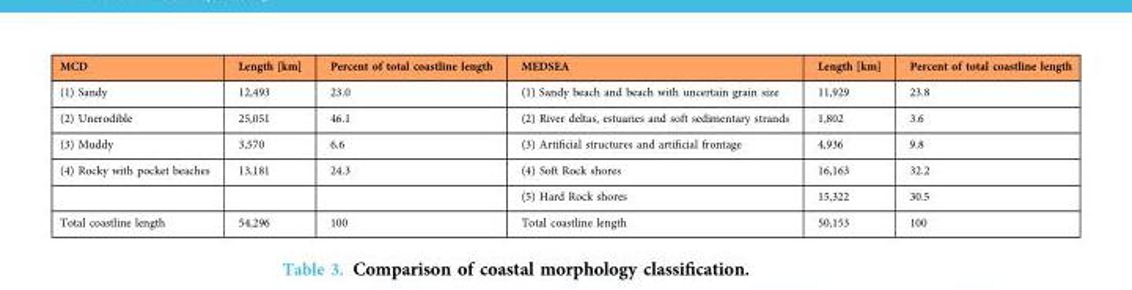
<table><thead><tr><td>MCD</td><td>Length [km]</td><td>Percent of total coastline length</td><td>MEDSEA</td><td>Length [km]</td><td>Percent of total coastline length</td></tr></thead><tbody><tr><td>(1) Sandy</td><td>12,493</td><td>23.0</td><td>(1) Sandy beach and beach with uncertain grain size</td><td>11,929</td><td>23.8</td></tr><tr><td>(2) Unerodible</td><td>25,051</td><td>46.1</td><td>(2) River deltas, estuaries and soft sedimentary strands</td><td>1,802</td><td>3.6</td></tr><tr><td>(3) Muddy</td><td>3,570</td><td>6.6</td><td>(3) Artificial structures and artificial frontage</td><td>4,936</td><td>9.8</td></tr><tr><td rowspan="2">(4) Rocky with pocket beaches</td><td>13,181</td><td>24.3</td><td>(4) Soft Rock shores</td><td>16,163</td><td>32.2</td></tr><tr><td></td><td></td><td>(5) Hard Rock shores</td><td>15,322</td><td>30.5</td></tr><tr><td>Total coastline length</td><td>54,296</td><td>100</td><td>Total coastline length</td><td>50,153</td><td>100</td></tr></tbody></table>